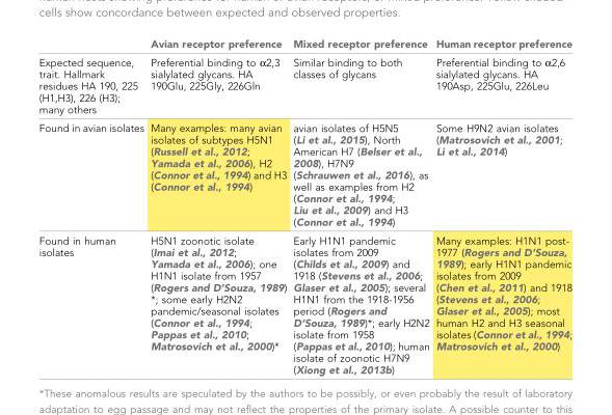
<table><thead><tr><td></td><td>Avian receptor preference</td><td>Mixed receptor preference</td><td>Human receptor preference</td></tr></thead><tbody><tr><td>Expected sequence, trait. Hallmark residues HA 190, 225 (H1,H3), 226 (H3); many others</td><td>Preferential binding to α2,3 sialylated glycans. HA 190Glu, 225Gly, 226Gln</td><td>Similar binding to both classes of glycans</td><td>Preferential binding to α2,6 sialylated glycans. HA 190Asp, 225Glu, 226Leu</td></tr><tr><td>Found in avian isolates</td><td>Many examples: many avian isolates of subtypes H5N1 (Russell et al., 2012; Yamada et al., 2006), H2 (Connor et al., 1994) and H3 (Connor et al., 1994)</td><td>avian isolates of H5N5 (Li et al., 2015), North American H7 (Belser et al., 2008), H7N9 (Schrauwen et al., 2016), as well as examples from H2 (Connor et al., 1994; Liu et al., 2009) and H3 (Connor et al., 1994)</td><td>Some H9N2 avian isolates (Matrosovich et al., 2001; Li et al., 2014)</td></tr><tr><td>Found in human isolates</td><td>H5N1 zoonotic isolate (Imai et al., 2012; Yamada et al., 2006); one H1N1 isolate from 1957 (Rogers and D’Souza, 1989) *; some early H2N2 pandemic/seasonal isolates (Connor et al., 1994; Pappas et al., 2010; Matrosovich et al., 2000)*</td><td>Early H1N1 pandemic isolates from 2009 (Childs et al., 2009) and 1918 (Stevens et al., 2006; Glaser et al., 2005); several H1N1 from the 1918-1956 period (Rogers and D’Souza, 1989)*; early H2N2 isolate from 1958 (Pappas et al., 2010); human isolate of zoonotic H7N9 (Xiong et al., 2013b)</td><td>Many examples: H1N1 post- 1977 (Rogers and D’Souza, 1989); early H1N1 pandemic isolates from 2009 (Chen et al., 2011) and 1918 (Stevens et al., 2006; Glaser et al., 2005); most human H2 and H3 seasonal isolates (Connor et al., 1994; Matrosovich et al., 2000)</td></tr></tbody></table>